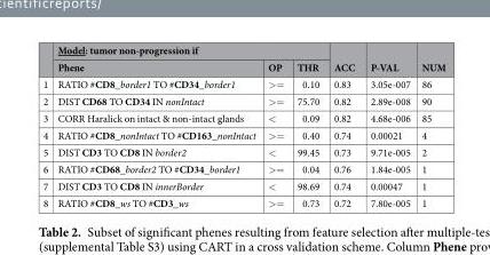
<table><thead><tr><td rowspan="2"></td><td colspan="3">Model: tumor non-progression if</td><td rowspan="2">ACC</td><td rowspan="2">P-VAL</td><td rowspan="2">NUM</td></tr><tr><td>Phene</td><td>OP</td><td>THR</td></tr></thead><tbody><tr><td>1</td><td>RATIO #CD8_border1 TO #CD34_border1</td><td>&gt;=</td><td>0.10</td><td>0.83</td><td>3.05e-007</td><td>86</td></tr><tr><td>2</td><td>DIST CD68 TO CD34 IN nonIntact</td><td>&gt;=</td><td>75.70</td><td>0.82</td><td>2.89e-008</td><td>90</td></tr><tr><td>3</td><td>CORR Haralick on intact &amp; non-intact glands</td><td>&lt;</td><td>0.09</td><td>0.82</td><td>4.68e-006</td><td>85</td></tr><tr><td>4</td><td>RATIO #CD8_nonIntact TO #CD163_nonIntact</td><td>&gt;=</td><td>0.40</td><td>0.74</td><td>0.00021</td><td>4</td></tr><tr><td>5</td><td>DIST CD3 TO CD8 IN border2</td><td>&lt;</td><td>99.45</td><td>0.73</td><td>9.71e-005</td><td>2</td></tr><tr><td>6</td><td>RATIO #CD68_border2 TO #CD34_border1</td><td>&gt;=</td><td>0.04</td><td>0.76</td><td>1.84e-005</td><td>1</td></tr><tr><td>7</td><td>DIST CD3 TO CD8 IN innerBorder</td><td>&lt;</td><td>98.69</td><td>0.74</td><td>0.00047</td><td>1</td></tr><tr><td>8</td><td>RATIO #CD8_ws TO #CD3_ws</td><td>&gt;=</td><td>0.73</td><td>0.72</td><td>7.80e-005</td><td>1</td></tr></tbody></table>